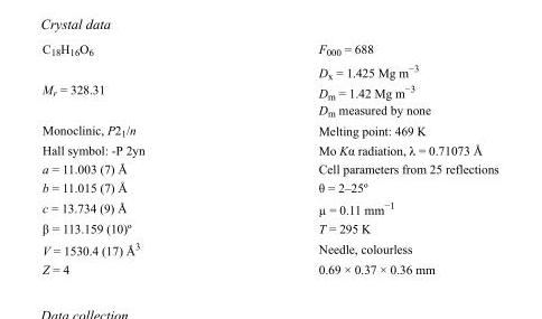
<table><tbody><tr><td>C<sub>18</sub>H<sub>16</sub>O<sub>6</sub></td><td>F000 = 688</td></tr><tr><td>M<sub>r</sub> = 328.31</td><td>D<sub>x</sub> = 1.425 Mg m<sup>−3</sup> D<sub>m</sub> = 1.42 Mg m<sup>−3</sup> D<sub>m</sub> measured by none</td></tr><tr><td>Monoclinic, P2<sub>1</sub>/n</td><td>Melting point: 469 K</td></tr><tr><td>Hall symbol: -P 2yn</td><td>Mo Kα radiation, λ = 0.71073 Å</td></tr><tr><td>a = 11.003 (7) Å</td><td>Cell parameters from 25 reflections</td></tr><tr><td>b = 11.015 (7) Å</td><td>θ = 2–25º</td></tr><tr><td>c = 13.734 (9) Å</td><td>µ = 0.11 mm<sup>−1</sup></td></tr><tr><td>β = 113.159 (10)º</td><td>T = 295 K</td></tr><tr><td>V = 1530.4 (17) Å<sup>3</sup></td><td>Needle, colourless</td></tr><tr><td>Z = 4</td><td>0.69 × 0.37 × 0.36 mm</td></tr></tbody></table>